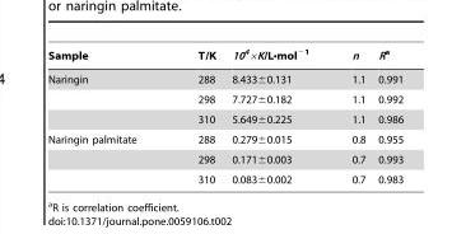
<table><thead><tr><td>Sample</td><td>T/K</td><td>10<sup>4</sup>×K/L•mol<sup>−1</sup></td><td>n</td><td>Ra</td></tr></thead><tbody><tr><td rowspan="3">Naringin</td><td>288</td><td>8.433±0.131</td><td>1.1</td><td>0.991</td></tr><tr><td>298</td><td>7.727±0.182</td><td>1.1</td><td>0.992</td></tr><tr><td>310</td><td>5.649±0.225</td><td>1.1</td><td>0.986</td></tr><tr><td rowspan="3">Naringin palmitate</td><td>288</td><td>0.279±0.015</td><td>0.8</td><td>0.955</td></tr><tr><td>298</td><td>0.171±0.003</td><td>0.7</td><td>0.993</td></tr><tr><td>310</td><td>0.083±0.002</td><td>0.7</td><td>0.983</td></tr></tbody></table>